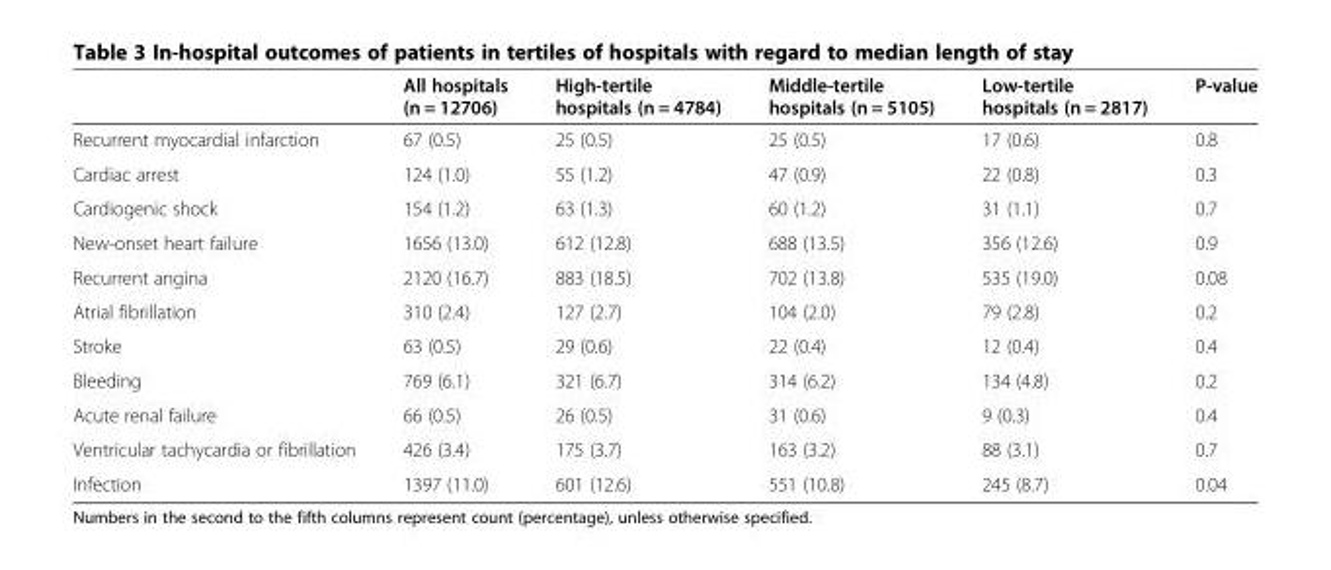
<table><thead><tr><td></td><td>All hospitals (n = 12706)</td><td>High-tertile hospitals (n = 4784)</td><td>Middle-tertile hospitals (n = 5105)</td><td>Low-tertile hospitals (n = 2817)</td><td>P-value</td></tr></thead><tbody><tr><td>Recurrent myocardial infarction</td><td>67 (0.5)</td><td>25 (0.5)</td><td>25 (0.5)</td><td>17 (0.6)</td><td>0.8</td></tr><tr><td>Cardiac arrest</td><td>124 (1.0)</td><td>55 (1.2)</td><td>47 (0.9)</td><td>22 (0.8)</td><td>0.3</td></tr><tr><td>Cardiogenic shock</td><td>154 (1.2)</td><td>63 (1.3)</td><td>60 (1.2)</td><td>31 (1.1)</td><td>0.7</td></tr><tr><td>New-onset heart failure</td><td>1656 (13.0)</td><td>612 (12.8)</td><td>688 (13.5)</td><td>356 (12.6)</td><td>0.9</td></tr><tr><td>Recurrent angina</td><td>2120 (16.7)</td><td>883 (18.5)</td><td>702 (13.8)</td><td>535 (19.0)</td><td>0.08</td></tr><tr><td>Atrial fibrillation</td><td>310 (2.4)</td><td>127 (2.7)</td><td>104 (2.0)</td><td>79 (2.8)</td><td>0.2</td></tr><tr><td>Stroke</td><td>63 (0.5)</td><td>29 (0.6)</td><td>22 (0.4)</td><td>12 (0.4)</td><td>0.4</td></tr><tr><td>Bleeding</td><td>769 (6.1)</td><td>321 (6.7)</td><td>314 (6.2)</td><td>134 (4.8)</td><td>0.2</td></tr><tr><td>Acute renal failure</td><td>66 (0.5)</td><td>26 (0.5)</td><td>31 (0.6)</td><td>9 (0.3)</td><td>0.4</td></tr><tr><td>Ventricular tachycardia or fibrillation</td><td>426 (3.4)</td><td>175 (3.7)</td><td>163 (3.2)</td><td>88 (3.1)</td><td>0.7</td></tr><tr><td>Infection</td><td>1397 (11.0)</td><td>601 (12.6)</td><td>551 (10.8)</td><td>245 (8.7)</td><td>0.04</td></tr></tbody></table>